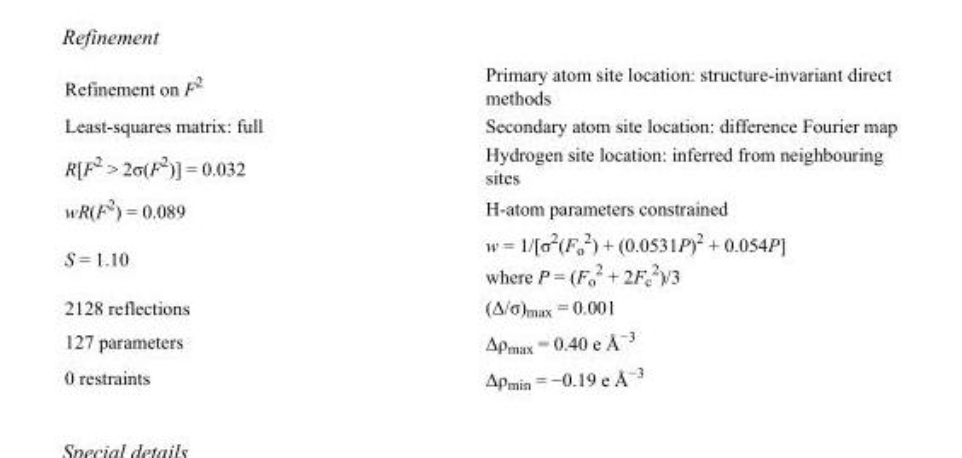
<table><tbody><tr><td>Refinement on F<sup>2</sup></td><td>Primary atom site location: structure-invariant direct methods</td></tr><tr><td>Least-squares matrix: full</td><td>Secondary atom site location: difference Fourier map</td></tr><tr><td>R[F<sup>2</sup> &gt; 2σ(F<sup>2</sup>)] = 0.032</td><td>Hydrogen site location: inferred from neighbouring sites</td></tr><tr><td>wR(F<sup>2</sup>) = 0.089</td><td>H-atom parameters constrained</td></tr><tr><td>S = 1.10</td><td>w = 1/[σ<sup>2</sup>(F<sub>o</sub> <sup>2</sup>) + (0.0531P)<sup>2</sup> + 0.054P] where P = (F<sub>o</sub> <sup>2</sup> + 2F<sub>c</sub> <sup>2</sup>)/3</td></tr><tr><td>2128 reflections</td><td>(Δ/σ)<sub>max</sub> = 0.001</td></tr><tr><td>127 parameters</td><td>Δρ<sub>max</sub> = 0.40 e Å<sup>−3</sup></td></tr><tr><td>0 restraints</td><td>Δρ<sub>min</sub> = −0.19 e Å<sup>−3</sup></td></tr></tbody></table>